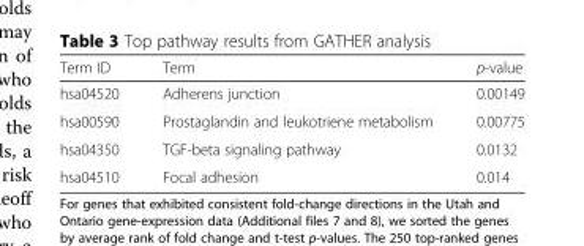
<table><thead><tr><td>Term ID</td><td>Term</td><td>p-value</td></tr></thead><tbody><tr><td>hsa04520</td><td>Adherens junction</td><td>0.00149</td></tr><tr><td>hsa00590</td><td>Prostaglandin and leukotriene metabolism</td><td>0.00775</td></tr><tr><td>hsa04350</td><td>TGF-beta signaling pathway</td><td>0.0132</td></tr><tr><td>hsa04510</td><td>Focal adhesion</td><td>0.014</td></tr></tbody></table>